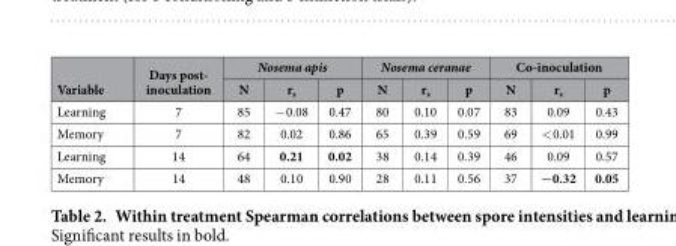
<table><thead><tr><td rowspan="2">Variable</td><td rowspan="2">Days post- inoculation</td><td colspan="3">Nosema apis</td><td colspan="3">Nosema ceranae</td><td colspan="3">Co-inoculation</td></tr><tr><td>N</td><td>r<sub>s</sub></td><td>p</td><td>N</td><td>r<sub>s</sub></td><td>p</td><td>N</td><td>r<sub>s</sub></td><td>p</td></tr></thead><tbody><tr><td>Learning</td><td>7</td><td>85</td><td>− 0.08</td><td>0.47</td><td>80</td><td>0.10</td><td>0.07</td><td>83</td><td>0.09</td><td>0.43</td></tr><tr><td>Memory</td><td>7</td><td>82</td><td>0.02</td><td>0.86</td><td>65</td><td>0.39</td><td>0.59</td><td>69</td><td>&lt; 0.01</td><td>0.99</td></tr><tr><td>Learning</td><td>14</td><td>64</td><td>0.21</td><td>0.02</td><td>38</td><td>0.14</td><td>0.39</td><td>46</td><td>0.09</td><td>0.57</td></tr><tr><td>Memory</td><td>14</td><td>48</td><td>0.10</td><td>0.90</td><td>28</td><td>0.11</td><td>0.56</td><td>37</td><td>−0.32</td><td>0.05</td></tr></tbody></table>